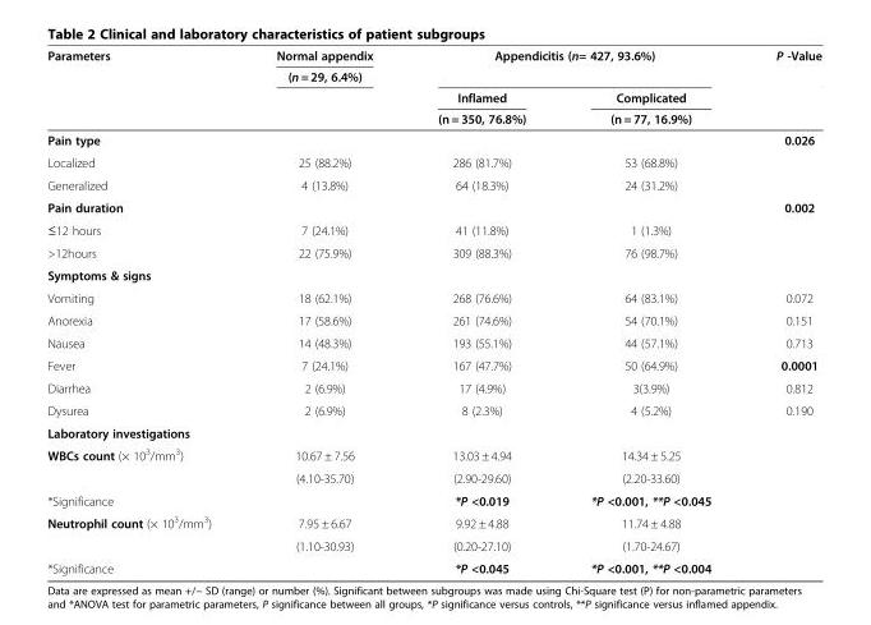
<table><thead><tr><td rowspan="4">Parameters</td><td rowspan="4">Normal appendix (n = 29, 6.4%)</td><td rowspan="2" colspan="2">Appendicitis (n= 427, 93.6%)</td><td rowspan="4">P -Value</td></tr><tr></tr><tr><td rowspan="2">Inflamed (n = 350, 76.8%)</td><td rowspan="2">Complicated (n = 77, 16.9%)</td></tr><tr></tr></thead><tbody><tr><td>Pain type</td><td></td><td></td><td></td><td>0.026</td></tr><tr><td>Localized</td><td>25 (88.2%)</td><td>286 (81.7%)</td><td>53 (68.8%)</td><td></td></tr><tr><td>Generalized</td><td>4 (13.8%)</td><td>64 (18.3%)</td><td>24 (31.2%)</td><td></td></tr><tr><td>Pain duration</td><td></td><td></td><td></td><td>0.002</td></tr><tr><td>≤12 hours</td><td>7 (24.1%)</td><td>41 (11.8%)</td><td>1 (1.3%)</td><td></td></tr><tr><td>&gt;12hours</td><td>22 (75.9%)</td><td>309 (88.3%)</td><td>76 (98.7%)</td><td></td></tr><tr><td colspan="5">Symptoms &amp; signs</td></tr><tr><td>Vomiting</td><td>18 (62.1%)</td><td>268 (76.6%)</td><td>64 (83.1%)</td><td>0.072</td></tr><tr><td>Anorexia</td><td>17 (58.6%)</td><td>261 (74.6%)</td><td>54 (70.1%)</td><td>0.151</td></tr><tr><td>Nausea</td><td>14 (48.3%)</td><td>193 (55.1%)</td><td>44 (57.1%)</td><td>0.713</td></tr><tr><td>Fever</td><td>7 (24.1%)</td><td>167 (47.7%)</td><td>50 (64.9%)</td><td>0.0001</td></tr><tr><td>Diarrhea</td><td>2 (6.9%)</td><td>17 (4.9%)</td><td>3(3.9%)</td><td>0.812</td></tr><tr><td>Dysurea</td><td>2 (6.9%)</td><td>8 (2.3%)</td><td>4 (5.2%)</td><td>0.190</td></tr><tr><td colspan="5">Laboratory investigations</td></tr><tr><td rowspan="2">WBCs count (× 10<sup>3</sup>/mm<sup>3</sup>)</td><td>10.67 ± 7.56</td><td>13.03 ± 4.94</td><td>14.34 ± 5.25</td><td></td></tr><tr><td>(4.10-35.70)</td><td>(2.90-29.60)</td><td>(2.20-33.60)</td><td></td></tr><tr><td>*Significance</td><td></td><td>*P &lt;0.019</td><td>*P &lt;0.001, **P &lt;0.045</td><td></td></tr><tr><td rowspan="2">Neutrophil count (× 10<sup>3</sup>/mm<sup>3</sup>)</td><td>7.95 ± 6.67</td><td>9.92 ± 4.88</td><td>11.74 ± 4.88</td><td></td></tr><tr><td>(1.10-30.93)</td><td>(0.20-27.10)</td><td>(1.70-24.67)</td><td></td></tr><tr><td>*Significance</td><td></td><td>*P &lt;0.045</td><td>*P &lt;0.001, **P &lt;0.004</td><td></td></tr></tbody></table>